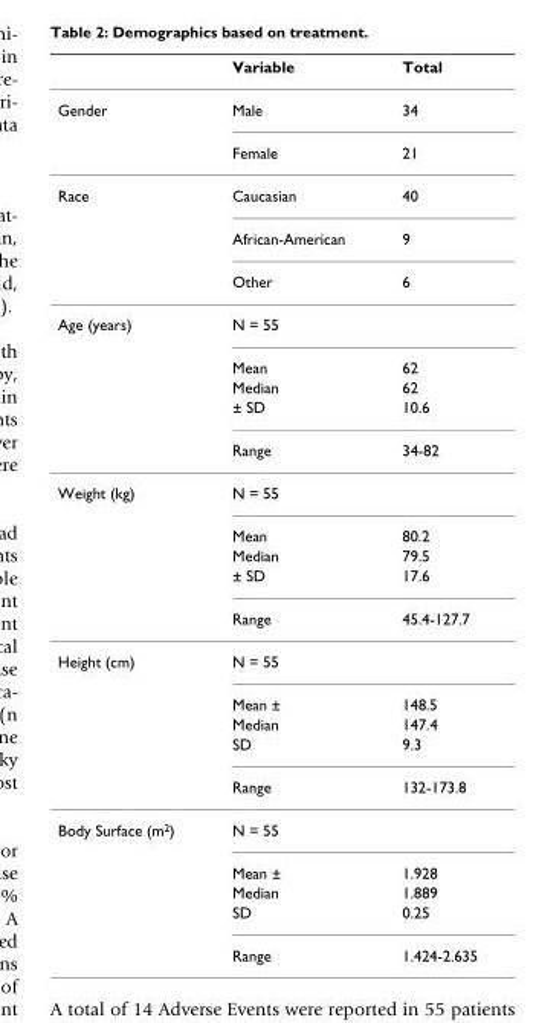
<table><thead><tr><td></td><td>Variable</td><td>Total</td></tr></thead><tbody><tr><td rowspan="2">Gender</td><td>Male</td><td>34</td></tr><tr><td>Female</td><td>21</td></tr><tr><td rowspan="3">Race</td><td>Caucasian</td><td>40</td></tr><tr><td>African-American</td><td>9</td></tr><tr><td>Other</td><td>6</td></tr><tr><td rowspan="5">Age (years)</td><td>N = 55</td><td></td></tr><tr><td>Mean</td><td>62</td></tr><tr><td>Median</td><td>62</td></tr><tr><td>± SD</td><td>10.6</td></tr><tr><td>Range</td><td>34-82</td></tr><tr><td rowspan="5">Weight (kg)</td><td>N = 55</td><td></td></tr><tr><td>Mean</td><td>80.2</td></tr><tr><td>Median</td><td>79.5</td></tr><tr><td>± SD</td><td>17.6</td></tr><tr><td>Range</td><td>45.4-127.7</td></tr><tr><td rowspan="5">Height (cm)</td><td>N = 55</td><td></td></tr><tr><td>Mean ±</td><td>148.5</td></tr><tr><td>Median</td><td>147.4</td></tr><tr><td>SD</td><td>9.3</td></tr><tr><td>Range</td><td>132-173.8</td></tr><tr><td rowspan="5">Body Surface (m<sup>2</sup>)</td><td>N = 55</td><td></td></tr><tr><td>Mean ±</td><td>1.928</td></tr><tr><td>Median</td><td>1.889</td></tr><tr><td>SD</td><td>0.25</td></tr><tr><td>Range</td><td>1.424-2.635</td></tr></tbody></table>